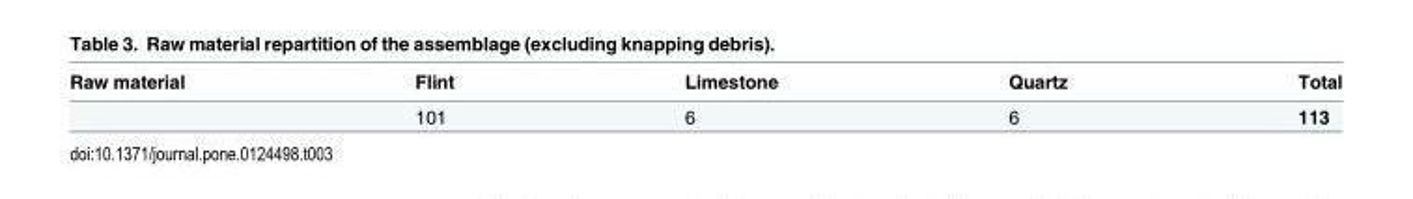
<table><thead><tr><td>Raw material</td><td>Flint</td><td>Limestone</td><td>Quartz</td><td>Total</td></tr></thead><tbody><tr><td></td><td>101</td><td>6</td><td>6</td><td>113</td></tr></tbody></table>